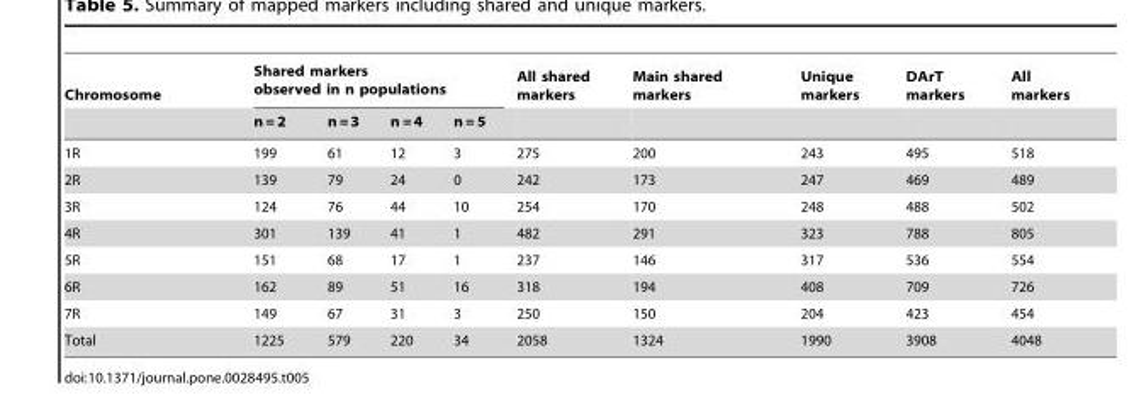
<table><thead><tr><td rowspan="2">Chromosome</td><td colspan="4">Shared markers observed in n populations</td><td rowspan="2">All shared markers</td><td rowspan="2">Main shared markers</td><td rowspan="2">Unique markers</td><td rowspan="2">DArT markers</td><td rowspan="2">All markers</td></tr><tr><td>n = 2</td><td>n = 3</td><td>n = 4</td><td>n = 5</td></tr></thead><tbody><tr><td>1R</td><td>199</td><td>61</td><td>12</td><td>3</td><td>275</td><td>200</td><td>243</td><td>495</td><td>518</td></tr><tr><td>2R</td><td>139</td><td>79</td><td>24</td><td>0</td><td>242</td><td>173</td><td>247</td><td>469</td><td>489</td></tr><tr><td>3R</td><td>124</td><td>76</td><td>44</td><td>10</td><td>254</td><td>170</td><td>248</td><td>488</td><td>502</td></tr><tr><td>4R</td><td>301</td><td>139</td><td>41</td><td>1</td><td>482</td><td>291</td><td>323</td><td>788</td><td>805</td></tr><tr><td>5R</td><td>151</td><td>68</td><td>17</td><td>1</td><td>237</td><td>146</td><td>317</td><td>536</td><td>554</td></tr><tr><td>6R</td><td>162</td><td>89</td><td>51</td><td>16</td><td>318</td><td>194</td><td>408</td><td>709</td><td>726</td></tr><tr><td>7R</td><td>149</td><td>67</td><td>31</td><td>3</td><td>250</td><td>150</td><td>204</td><td>423</td><td>454</td></tr><tr><td>Total</td><td>1225</td><td>579</td><td>220</td><td>34</td><td>2058</td><td>1324</td><td>1990</td><td>3908</td><td>4048</td></tr></tbody></table>